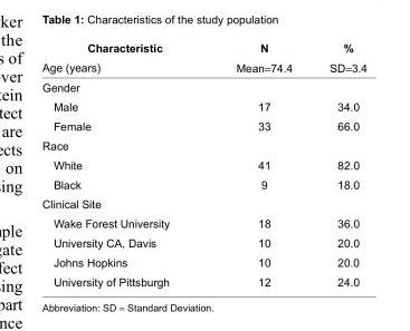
<table><thead><tr><td rowspan="2">Characteristic Age (years)</td><td rowspan="2">N Mean=74.4</td><td rowspan="2">% SD=3.4</td></tr><tr></tr></thead><tbody><tr><td colspan="3">Gender</td></tr><tr><td>Male</td><td>17</td><td>34.0</td></tr><tr><td>Female</td><td>33</td><td>66.0</td></tr><tr><td colspan="3">Race</td></tr><tr><td>White</td><td>41</td><td>82.0</td></tr><tr><td>Black</td><td>9</td><td>18.0</td></tr><tr><td colspan="3">Clinical Site</td></tr><tr><td>Wake Forest University</td><td>18</td><td>36.0</td></tr><tr><td>University CA, Davis</td><td>10</td><td>20.0</td></tr><tr><td>Johns Hopkins</td><td>10</td><td>20.0</td></tr><tr><td>University of Pittsburgh</td><td>12</td><td>24.0</td></tr></tbody></table>